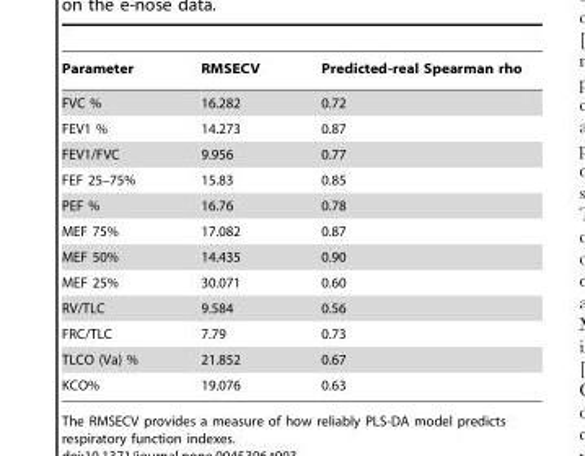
<table><thead><tr><td>Parameter</td><td>RMSECV</td><td>Predicted-real Spearman rho</td></tr></thead><tbody><tr><td>FVC %</td><td>16.282</td><td>0.72</td></tr><tr><td>FEV1 %</td><td>14.273</td><td>0.87</td></tr><tr><td>FEV1/FVC</td><td>9.956</td><td>0.77</td></tr><tr><td>FEF 25–75%</td><td>15.83</td><td>0.85</td></tr><tr><td>PEF %</td><td>16.76</td><td>0.78</td></tr><tr><td>MEF 75%</td><td>17.082</td><td>0.87</td></tr><tr><td>MEF 50%</td><td>14.435</td><td>0.90</td></tr><tr><td>MEF 25%</td><td>30.071</td><td>0.60</td></tr><tr><td>RV/TLC</td><td>9.584</td><td>0.56</td></tr><tr><td>FRC/TLC</td><td>7.79</td><td>0.73</td></tr><tr><td>TLCO (Va) %</td><td>21.852</td><td>0.67</td></tr><tr><td>KCO%</td><td>19.076</td><td>0.63</td></tr></tbody></table>